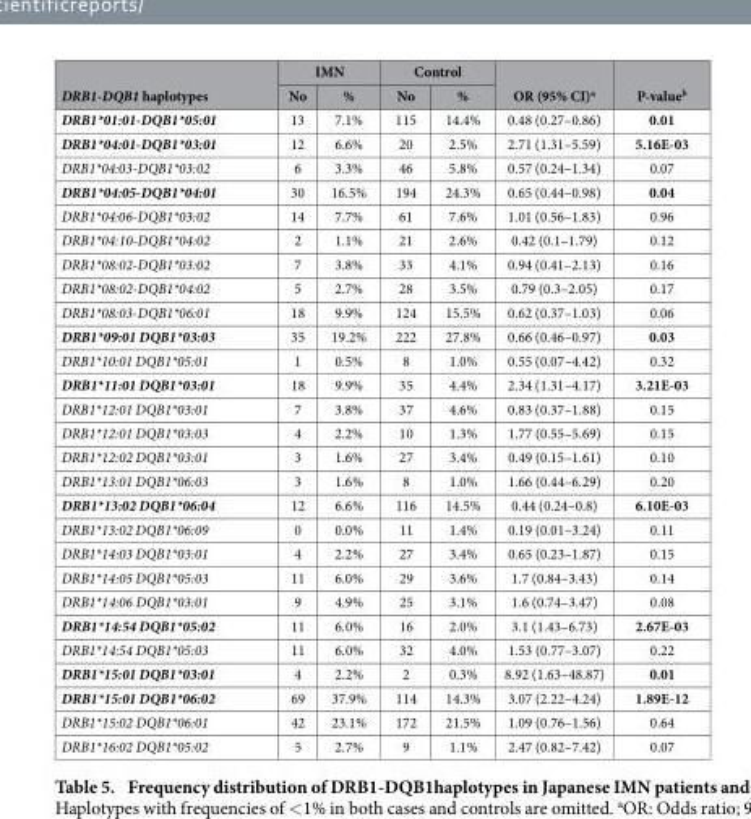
<table><thead><tr><td rowspan="2">DRB1-DQB1 haplotypes</td><td colspan="2">IMN</td><td colspan="2">Control</td><td rowspan="2">OR (95% CI)<sup>a</sup></td><td rowspan="2">P-value<sup>b</sup></td></tr><tr><td>No</td><td>%</td><td>No</td><td>%</td></tr></thead><tbody><tr><td>DRB1*01:01-DQB1*05:01</td><td>13</td><td>7.1%</td><td>115</td><td>14.4%</td><td>0.48 (0.27–0.86)</td><td>0.01</td></tr><tr><td>DRB1*04:01-DQB1*03:01</td><td>12</td><td>6.6%</td><td>20</td><td>2.5%</td><td>2.71 (1.31–5.59)</td><td>5.16E-03</td></tr><tr><td>DRB1*04:03-DQB1*03:02</td><td>6</td><td>3.3%</td><td>46</td><td>5.8%</td><td>0.57 (0.24–1.34)</td><td>0.07</td></tr><tr><td>DRB1*04:05-DQB1*04:01</td><td>30</td><td>16.5%</td><td>194</td><td>24.3%</td><td>0.65 (0.44–0.98)</td><td>0.04</td></tr><tr><td>DRB1*04:06-DQB1*03:02</td><td>14</td><td>7.7%</td><td>61</td><td>7.6%</td><td>1.01 (0.56–1.83)</td><td>0.96</td></tr><tr><td>DRB1*04:10-DQB1*04:02</td><td>2</td><td>1.1%</td><td>21</td><td>2.6%</td><td>0.42 (0.1–1.79)</td><td>0.12</td></tr><tr><td>DRB1*08:02-DQB1*03:02</td><td>7</td><td>3.8%</td><td>33</td><td>4.1%</td><td>0.94 (0.41–2.13)</td><td>0.16</td></tr><tr><td>DRB1*08:02-DQB1*04:02</td><td>5</td><td>2.7%</td><td>28</td><td>3.5%</td><td>0.79 (0.3–2.05)</td><td>0.17</td></tr><tr><td>DRB1*08:03-DQB1*06:01</td><td>18</td><td>9.9%</td><td>124</td><td>15.5%</td><td>0.62 (0.37–1.03)</td><td>0.06</td></tr><tr><td>DRB1*09:01 DQB1*03:03</td><td>35</td><td>19.2%</td><td>222</td><td>27.8%</td><td>0.66 (0.46–0.97)</td><td>0.03</td></tr><tr><td>DRB1*10:01 DQB1*05:01</td><td>1</td><td>0.5%</td><td>8</td><td>1.0%</td><td>0.55 (0.07–4.42)</td><td>0.32</td></tr><tr><td>DRB1*11:01 DQB1*03:01</td><td>18</td><td>9.9%</td><td>35</td><td>4.4%</td><td>2.34 (1.31–4.17)</td><td>3.21E-03</td></tr><tr><td>DRB1*12:01 DQB1*03:01</td><td>7</td><td>3.8%</td><td>37</td><td>4.6%</td><td>0.83 (0.37–1.88)</td><td>0.15</td></tr><tr><td>DRB1*12:01 DQB1*03:03</td><td>4</td><td>2.2%</td><td>10</td><td>1.3%</td><td>1.77 (0.55–5.69)</td><td>0.15</td></tr><tr><td>DRB1*12:02 DQB1*03:01</td><td>3</td><td>1.6%</td><td>27</td><td>3.4%</td><td>0.49 (0.15–1.61)</td><td>0.10</td></tr><tr><td>DRB1*13:01 DQB1*06:03</td><td>3</td><td>1.6%</td><td>8</td><td>1.0%</td><td>1.66 (0.44–6.29)</td><td>0.20</td></tr><tr><td>DRB1*13:02 DQB1*06:04</td><td>12</td><td>6.6%</td><td>116</td><td>14.5%</td><td>0.44 (0.24–0.8)</td><td>6.10E-03</td></tr><tr><td>DRB1*13:02 DQB1*06:09</td><td>0</td><td>0.0%</td><td>11</td><td>1.4%</td><td>0.19 (0.01–3.24)</td><td>0.11</td></tr><tr><td>DRB1*14:03 DQB1*03:01</td><td>4</td><td>2.2%</td><td>27</td><td>3.4%</td><td>0.65 (0.23–1.87)</td><td>0.15</td></tr><tr><td>DRB1*14:05 DQB1*05:03</td><td>11</td><td>6.0%</td><td>29</td><td>3.6%</td><td>1.7 (0.84–3.43)</td><td>0.14</td></tr><tr><td>DRB1*14:06 DQB1*03:01</td><td>9</td><td>4.9%</td><td>25</td><td>3.1%</td><td>1.6 (0.74–3.47)</td><td>0.08</td></tr><tr><td>DRB1*14:54 DQB1*05:02</td><td>11</td><td>6.0%</td><td>16</td><td>2.0%</td><td>3.1 (1.43–6.73)</td><td>2.67E-03</td></tr><tr><td>DRB1*14:54 DQB1*05:03</td><td>11</td><td>6.0%</td><td>32</td><td>4.0%</td><td>1.53 (0.77–3.07)</td><td>0.22</td></tr><tr><td>DRB1*15:01 DQB1*03:01</td><td>4</td><td>2.2%</td><td>2</td><td>0.3%</td><td>8.92 (1.63–48.87)</td><td>0.01</td></tr><tr><td>DRB1*15:01 DQB1*06:02</td><td>69</td><td>37.9%</td><td>114</td><td>14.3%</td><td>3.07 (2.22–4.24)</td><td>1.89E-12</td></tr><tr><td>DRB1*15:02 DQB1*06:01</td><td>42</td><td>23.1%</td><td>172</td><td>21.5%</td><td>1.09 (0.76–1.56)</td><td>0.64</td></tr><tr><td>DRB1*16:02 DQB1*05:02</td><td>5</td><td>2.7%</td><td>9</td><td>1.1%</td><td>2.47 (0.82–7.42)</td><td>0.07</td></tr></tbody></table>